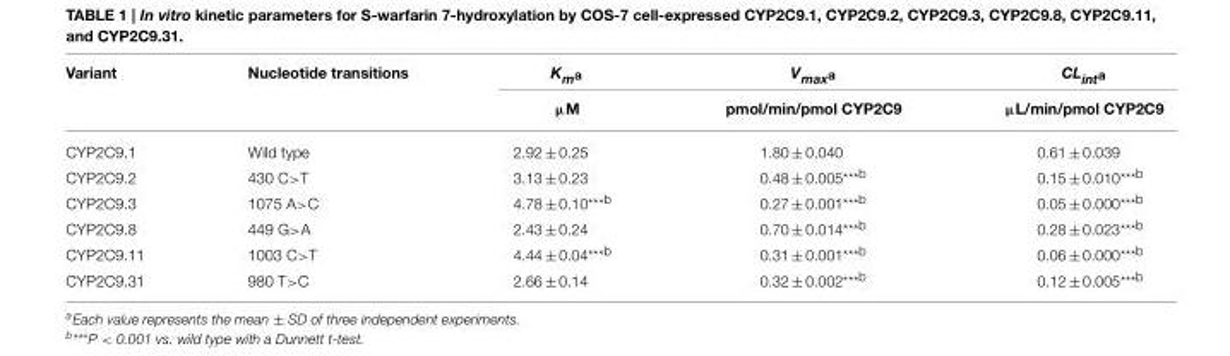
<table><thead><tr><td rowspan="2">Variant</td><td rowspan="2">Nucleotide transitions</td><td rowspan="2">K<sub>m</sub><sup><sub>a</sub></sup> µM</td><td rowspan="2">V<sub>max</sub><sup><sub>a</sub></sup> pmol/min/pmol CYP2C9</td><td rowspan="2">CL<sub>int</sub><sup><sub>a</sub></sup> µL/min/pmol CYP2C9</td></tr><tr></tr></thead><tbody><tr><td>CYP2C9.1</td><td>Wild type</td><td>2.92 ± 0.25</td><td>1.80 ± 0.040</td><td>0.61 ± 0.039</td></tr><tr><td>CYP2C9.2</td><td>430 C&gt;T</td><td>3.13 ± 0.23</td><td>0.48 ± 0.005<sup>***b</sup></td><td>0.15 ± 0.010<sup>***b</sup></td></tr><tr><td>CYP2C9.3</td><td>1075 A&gt;C</td><td>4.78 ± 0.10<sup>***b</sup></td><td>0.27 ± 0.001<sup>***b</sup></td><td>0.05 ± 0.000<sup>***b</sup></td></tr><tr><td>CYP2C9.8</td><td>449 G&gt;A</td><td>2.43 ± 0.24</td><td>0.70 ± 0.014<sup>***b</sup></td><td>0.28 ± 0.023<sup>***b</sup></td></tr><tr><td>CYP2C9.11</td><td>1003 C&gt;T</td><td>4.44 ± 0.04<sup>***b</sup></td><td>0.31 ± 0.001<sup>***b</sup></td><td>0.06 ± 0.000<sup>***b</sup></td></tr><tr><td>CYP2C9.31</td><td>980 T&gt;C</td><td>2.66 ± 0.14</td><td>0.32 ± 0.002<sup>***b</sup></td><td>0.12 ± 0.005<sup>***b</sup></td></tr></tbody></table>